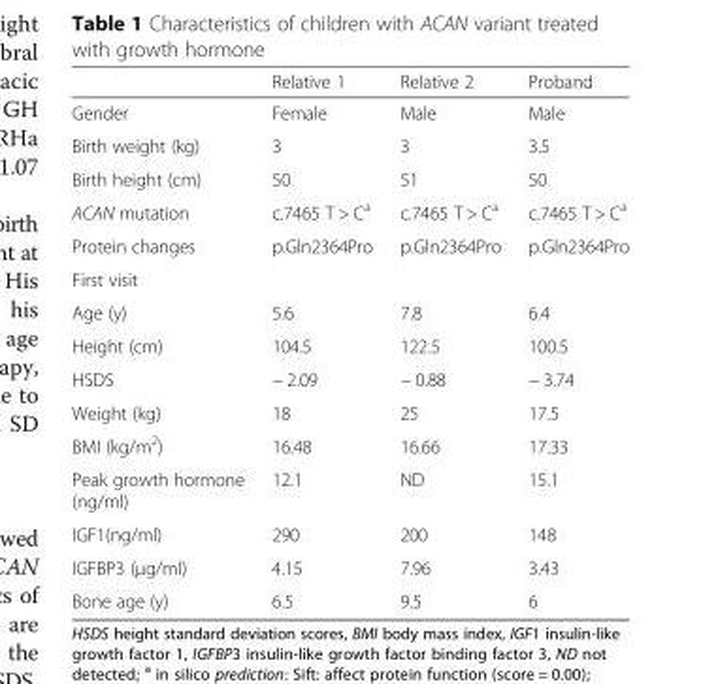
<table><thead><tr><td></td><td>Relative 1</td><td>Relative 2</td><td>Proband</td></tr></thead><tbody><tr><td>Gender</td><td>Female</td><td>Male</td><td>Male</td></tr><tr><td>Birth weight (kg)</td><td>3</td><td>3</td><td>3.5</td></tr><tr><td>Birth height (cm)</td><td>50</td><td>51</td><td>50</td></tr><tr><td>ACAN mutation</td><td>c.7465 T &gt; C<sup>a</sup></td><td>c.7465 T &gt; C<sup>a</sup></td><td>c.7465 T &gt; C<sup>a</sup></td></tr><tr><td>Protein changes</td><td>p.Gln2364Pro</td><td>p.Gln2364Pro</td><td>p.Gln2364Pro</td></tr><tr><td colspan="4">First visit</td></tr><tr><td>Age (y)</td><td>5.6</td><td>7.8</td><td>6.4</td></tr><tr><td>Height (cm)</td><td>104.5</td><td>122.5</td><td>100.5</td></tr><tr><td>HSDS</td><td>− 2.09</td><td>− 0.88</td><td>− 3.74</td></tr><tr><td>Weight (kg)</td><td>18</td><td>25</td><td>17.5</td></tr><tr><td>BMI (kg/m<sup>2</sup>)</td><td>16.48</td><td>16.66</td><td>17.33</td></tr><tr><td>Peak growth hormone (ng/ml)</td><td>12.1</td><td>ND</td><td>15.1</td></tr><tr><td>IGF1(ng/ml)</td><td>290</td><td>200</td><td>148</td></tr><tr><td>IGFBP3 (μg/ml)</td><td>4.15</td><td>7.96</td><td>3.43</td></tr><tr><td>Bone age (y)</td><td>6.5</td><td>9.5</td><td>6</td></tr></tbody></table>